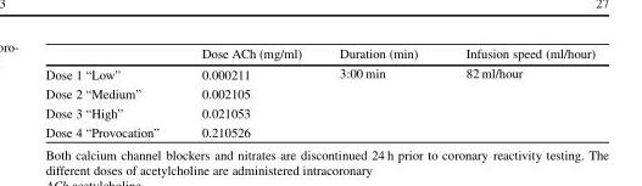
<table><thead><tr><td></td><td>Dose ACh (mg/ml)</td><td>Duration (min)</td><td>Infusion speed (ml/hour)</td></tr></thead><tbody><tr><td>Dose 1 “Low”</td><td>0.000211</td><td rowspan="4">3:00 min</td><td rowspan="4">82 ml/hour</td></tr><tr><td>Dose 2 “Medium”</td><td>0.002105</td></tr><tr><td>Dose 3 “High”</td><td>0.021053</td></tr><tr><td>Dose 4 “Provocation”</td><td>0.210526</td></tr></tbody></table>